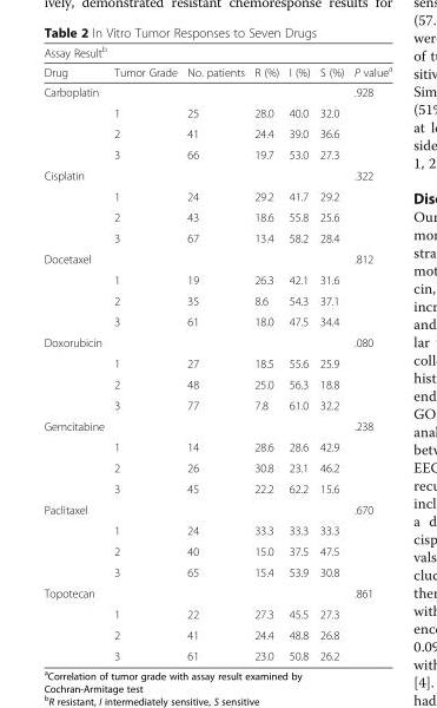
<table><thead><tr><td colspan="7">Assay Result<sup>b</sup></td></tr><tr><td>Drug</td><td>Tumor Grade</td><td>No. patients</td><td>R (%)</td><td>I (%)</td><td>S (%)</td><td>P value<sup>a</sup></td></tr></thead><tbody><tr><td rowspan="4">Carboplatin</td><td></td><td></td><td></td><td></td><td></td><td>.928</td></tr><tr><td>1</td><td>25</td><td>28.0</td><td>40.0</td><td>32.0</td><td></td></tr><tr><td>2</td><td>41</td><td>24.4</td><td>39.0</td><td>36.6</td><td></td></tr><tr><td>3</td><td>66</td><td>19.7</td><td>53.0</td><td>27.3</td><td></td></tr><tr><td rowspan="4">Cisplatin</td><td></td><td></td><td></td><td></td><td></td><td>.322</td></tr><tr><td>1</td><td>24</td><td>29.2</td><td>41.7</td><td>29.2</td><td></td></tr><tr><td>2</td><td>43</td><td>18.6</td><td>55.8</td><td>25.6</td><td></td></tr><tr><td>3</td><td>67</td><td>13.4</td><td>58.2</td><td>28.4</td><td></td></tr><tr><td rowspan="4">Docetaxel</td><td></td><td></td><td></td><td></td><td></td><td>.812</td></tr><tr><td>1</td><td>19</td><td>26.3</td><td>42.1</td><td>31.6</td><td></td></tr><tr><td>2</td><td>35</td><td>8.6</td><td>54.3</td><td>37.1</td><td></td></tr><tr><td>3</td><td>61</td><td>18.0</td><td>47.5</td><td>34.4</td><td></td></tr><tr><td rowspan="4">Doxorubicin</td><td></td><td></td><td></td><td></td><td></td><td>.080</td></tr><tr><td>1</td><td>27</td><td>18.5</td><td>55.6</td><td>25.9</td><td></td></tr><tr><td>2</td><td>48</td><td>25.0</td><td>56.3</td><td>18.8</td><td></td></tr><tr><td>3</td><td>77</td><td>7.8</td><td>61.0</td><td>32.2</td><td></td></tr><tr><td rowspan="4">Gemcitabine</td><td></td><td></td><td></td><td></td><td></td><td>.238</td></tr><tr><td>1</td><td>14</td><td>28.6</td><td>28.6</td><td>42.9</td><td></td></tr><tr><td>2</td><td>26</td><td>30.8</td><td>23.1</td><td>46.2</td><td></td></tr><tr><td>3</td><td>45</td><td>22.2</td><td>62.2</td><td>15.6</td><td></td></tr><tr><td rowspan="4">Paclitaxel</td><td></td><td></td><td></td><td></td><td></td><td>.670</td></tr><tr><td>1</td><td>24</td><td>33.3</td><td>33.3</td><td>33.3</td><td></td></tr><tr><td>2</td><td>40</td><td>15.0</td><td>37.5</td><td>47.5</td><td></td></tr><tr><td>3</td><td>65</td><td>15.4</td><td>53.9</td><td>30.8</td><td></td></tr><tr><td rowspan="4">Topotecan</td><td></td><td></td><td></td><td></td><td></td><td>.861</td></tr><tr><td>1</td><td>22</td><td>27.3</td><td>45.5</td><td>27.3</td><td></td></tr><tr><td>2</td><td>41</td><td>24.4</td><td>48.8</td><td>26.8</td><td></td></tr><tr><td>3</td><td>61</td><td>23.0</td><td>50.8</td><td>26.2</td><td></td></tr></tbody></table>